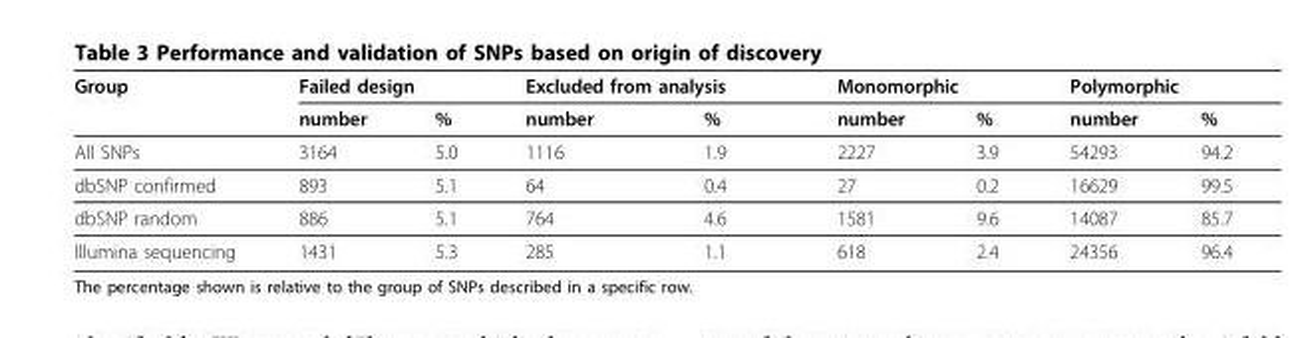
<table><thead><tr><td rowspan="2">Group</td><td colspan="2">Failed design</td><td colspan="2">Excluded from analysis</td><td colspan="2">Monomorphic</td><td colspan="2">Polymorphic</td></tr><tr><td>number</td><td>%</td><td>number</td><td>%</td><td>number</td><td>%</td><td>number</td><td>%</td></tr></thead><tbody><tr><td>All SNPs</td><td>3164</td><td>5.0</td><td>1116</td><td>1.9</td><td>2227</td><td>3.9</td><td>54293</td><td>94.2</td></tr><tr><td>dbSNP confirmed</td><td>893</td><td>5.1</td><td>64</td><td>0.4</td><td>27</td><td>0.2</td><td>16629</td><td>99.5</td></tr><tr><td>dbSNP random</td><td>886</td><td>5.1</td><td>764</td><td>4.6</td><td>1581</td><td>9.6</td><td>14087</td><td>85.7</td></tr><tr><td>Illumina sequencing</td><td>1431</td><td>5.3</td><td>285</td><td>1.1</td><td>618</td><td>2.4</td><td>24356</td><td>96.4</td></tr></tbody></table>